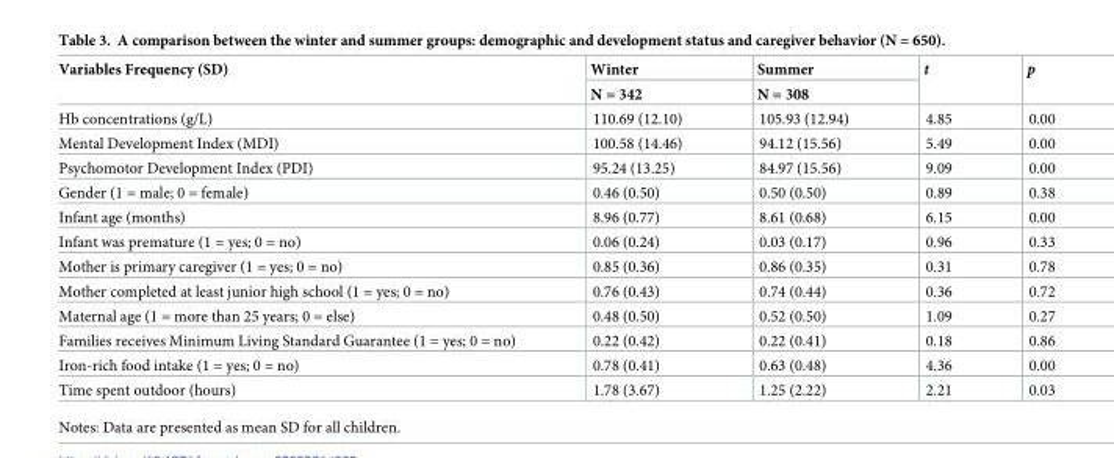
<table><thead><tr><td rowspan="2">Variables Frequency (SD)</td><td rowspan="2">Winter N = 342</td><td rowspan="2">Summer N = 308</td><td rowspan="2">t</td><td rowspan="2">p</td></tr><tr></tr></thead><tbody><tr><td>Hb concentrations (g/L)</td><td>110.69 (12.10)</td><td>105.93 (12.94)</td><td>4.85</td><td>0.00</td></tr><tr><td>Mental Development Index (MDI)</td><td>100.58 (14.46)</td><td>94.12 (15.56)</td><td>5.49</td><td>0.00</td></tr><tr><td>Psychomotor Development Index (PDI)</td><td>95.24 (13.25)</td><td>84.97 (15.56)</td><td>9.09</td><td>0.00</td></tr><tr><td>Gender (1 = male; 0 = female)</td><td>0.46 (0.50)</td><td>0.50 (0.50)</td><td>0.89</td><td>0.38</td></tr><tr><td>Infant age (months)</td><td>8.96 (0.77)</td><td>8.61 (0.68)</td><td>6.15</td><td>0.00</td></tr><tr><td>Infant was premature (1 = yes; 0 = no)</td><td>0.06 (0.24)</td><td>0.03 (0.17)</td><td>0.96</td><td>0.33</td></tr><tr><td>Mother is primary caregiver (1 = yes; 0 = no)</td><td>0.85 (0.36)</td><td>0.86 (0.35)</td><td>0.31</td><td>0.78</td></tr><tr><td>Mother completed at least junior high school (1 = yes; 0 = no)</td><td>0.76 (0.43)</td><td>0.74 (0.44)</td><td>0.36</td><td>0.72</td></tr><tr><td>Maternal age (1 = more than 25 years; 0 = else)</td><td>0.48 (0.50)</td><td>0.52 (0.50)</td><td>1.09</td><td>0.27</td></tr><tr><td>Families receives Minimum Living Standard Guarantee (1 = yes; 0 = no)</td><td>0.22 (0.42)</td><td>0.22 (0.41)</td><td>0.18</td><td>0.86</td></tr><tr><td>Iron-rich food intake (1 = yes; 0 = no)</td><td>0.78 (0.41)</td><td>0.63 (0.48)</td><td>4.36</td><td>0.00</td></tr><tr><td>Time spent outdoor (hours)</td><td>1.78 (3.67)</td><td>1.25 (2.22)</td><td>2.21</td><td>0.03</td></tr></tbody></table>